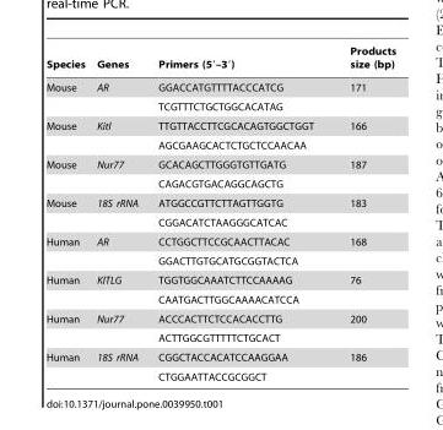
<table><thead><tr><td>Species</td><td>Genes</td><td>Primers (5′–3′)</td><td>Products size (bp)</td></tr></thead><tbody><tr><td rowspan="2">Mouse</td><td>AR</td><td>GGACCATGTTTTACCCATCG</td><td>171</td></tr><tr><td></td><td>TCGTTTCTGCTGGCACATAG</td><td></td></tr><tr><td rowspan="2">Mouse</td><td>Kitl</td><td>TTGTTACCTTCGCACAGTGGCTGGT</td><td>166</td></tr><tr><td></td><td>AGCGAAGCACTCTGCTCCAACAA</td><td></td></tr><tr><td rowspan="2">Mouse</td><td>Nur77</td><td>GCACAGCTTGGGTGTTGATG</td><td>187</td></tr><tr><td></td><td>CAGACGTGACAGGCAGCTG</td><td></td></tr><tr><td rowspan="2">Mouse</td><td>18S rRNA</td><td>ATGGCCGTTCTTAGTTGGTG</td><td>183</td></tr><tr><td></td><td>CGGACATCTAAGGGCATCAC</td><td></td></tr><tr><td rowspan="2">Human</td><td>AR</td><td>CCTGGCTTCCGCAACTTACAC</td><td>168</td></tr><tr><td></td><td>GGACTTGTGCATGCGGTACTCA</td><td></td></tr><tr><td rowspan="2">Human</td><td>KITLG</td><td>TGGTGGCAAATCTTCCAAAAG</td><td>76</td></tr><tr><td></td><td>CAATGACTTGGCAAAACATCCA</td><td></td></tr><tr><td rowspan="2">Human</td><td>Nur77</td><td>ACCCACTTCTCCACACCTTG</td><td>200</td></tr><tr><td></td><td>ACTTGGCGTTTTTCTGCACT</td><td></td></tr><tr><td rowspan="2">Human</td><td>18S rRNA</td><td>CGGCTACCACATCCAAGGAA</td><td>186</td></tr><tr><td></td><td>CTGGAATTACCGCGGCT</td><td></td></tr></tbody></table>